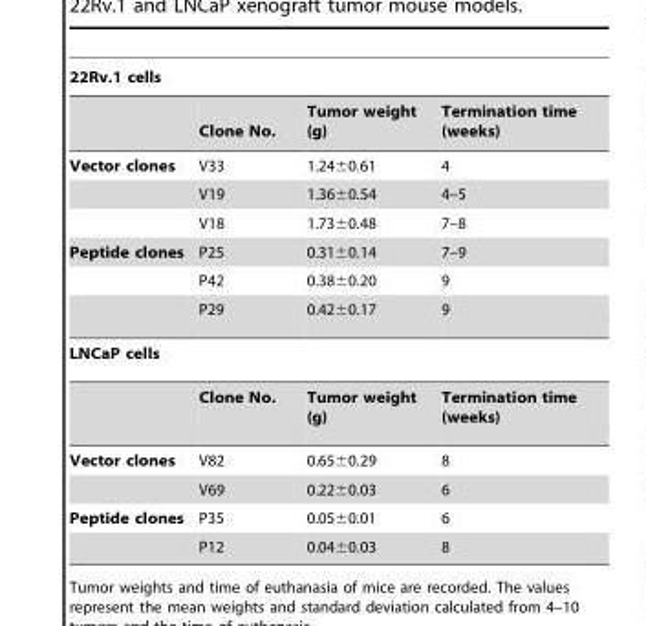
<table><thead><tr><td colspan="4">22Rv.1 cells</td></tr><tr><td></td><td>Clone No.</td><td>Tumor weight (g)</td><td>Termination time (weeks)</td></tr></thead><tbody><tr><td rowspan="3">Vector clones</td><td>V33</td><td>1.24±0.61</td><td>4</td></tr><tr><td>V19</td><td>1.36±0.54</td><td>4–5</td></tr><tr><td>V18</td><td>1.73±0.48</td><td>7–8</td></tr><tr><td rowspan="3">Peptide clones</td><td>P25</td><td>0.31±0.14</td><td>7–9</td></tr><tr><td>P42</td><td>0.38±0.20</td><td>9</td></tr><tr><td>P29</td><td>0.42±0.17</td><td>9</td></tr><tr><td colspan="4">LNCaP cells</td></tr><tr><td></td><td>Clone No.</td><td>Tumor weight (g)</td><td>Termination time (weeks)</td></tr><tr><td rowspan="2">Vector clones</td><td>V82</td><td>0.65±0.29</td><td>8</td></tr><tr><td>V69</td><td>0.22±0.03</td><td>6</td></tr><tr><td rowspan="2">Peptide clones</td><td>P35</td><td>0.05±0.01</td><td>6</td></tr><tr><td>P12</td><td>0.04±0.03</td><td>8</td></tr></tbody></table>